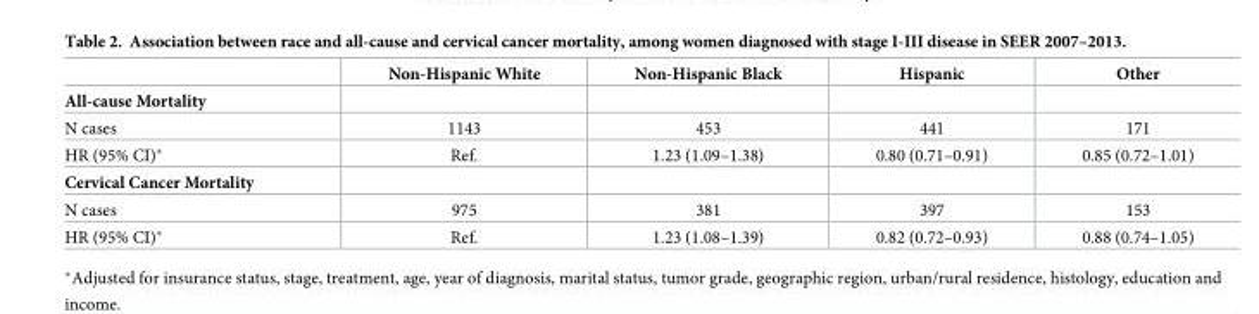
<table><thead><tr><td></td><td>Non-Hispanic White</td><td>Non-Hispanic Black</td><td>Hispanic</td><td>Other</td></tr></thead><tbody><tr><td colspan="5">All-cause Mortality</td></tr><tr><td>N cases</td><td>1143</td><td>453</td><td>441</td><td>171</td></tr><tr><td>HR (95% CI)*</td><td>Ref.</td><td>1.23 (1.09–1.38)</td><td>0.80 (0.71–0.91)</td><td>0.85 (0.72–1.01)</td></tr><tr><td colspan="5">Cervical Cancer Mortality</td></tr><tr><td>N cases</td><td>975</td><td>381</td><td>397</td><td>153</td></tr><tr><td>HR (95% CI)*</td><td>Ref.</td><td>1.23 (1.08–1.39)</td><td>0.82 (0.72–0.93)</td><td>0.88 (0.74–1.05)</td></tr></tbody></table>